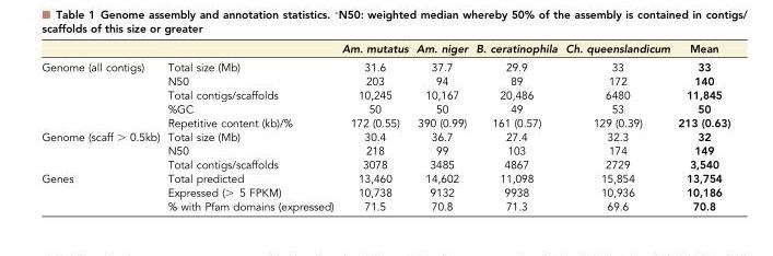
<table><thead><tr><td></td><td></td><td>Am. mutatus</td><td>Am. niger</td><td>B. ceratinophila</td><td>Ch. queenslandicum</td><td>Mean</td></tr></thead><tbody><tr><td rowspan="5">Genome (all contigs)</td><td>Total size (Mb)</td><td>31.6</td><td>37.7</td><td>29.9</td><td>33</td><td>33</td></tr><tr><td>N50</td><td>203</td><td>94</td><td>89</td><td>172</td><td>140</td></tr><tr><td>Total contigs/scaffolds</td><td>10,245</td><td>10,167</td><td>20,486</td><td>6480</td><td>11,845</td></tr><tr><td>%GC</td><td>50</td><td>50</td><td>49</td><td>53</td><td>50</td></tr><tr><td>Repetitive content (kb)/%</td><td>172 (0.55)</td><td>390 (0.99)</td><td>161 (0.57)</td><td>129 (0.39)</td><td>213 (0.63)</td></tr><tr><td rowspan="3">Genome (scaff &gt; 0.5kb)</td><td>Total size (Mb)</td><td>30.4</td><td>36.7</td><td>27.4</td><td>32.3</td><td>32</td></tr><tr><td>N50</td><td>218</td><td>99</td><td>103</td><td>174</td><td>149</td></tr><tr><td>Total contigs/scaffolds</td><td>3078</td><td>3485</td><td>4867</td><td>2729</td><td>3,540</td></tr><tr><td rowspan="3">Genes</td><td>Total predicted</td><td>13,460</td><td>14,602</td><td>11,098</td><td>15,854</td><td>13,754</td></tr><tr><td>Expressed (&gt; 5 FPKM)</td><td>10,738</td><td>9132</td><td>9938</td><td>10,936</td><td>10,186</td></tr><tr><td>% with Pfam domains (expressed)</td><td>71.5</td><td>70.8</td><td>71.3</td><td>69.6</td><td>70.8</td></tr></tbody></table>